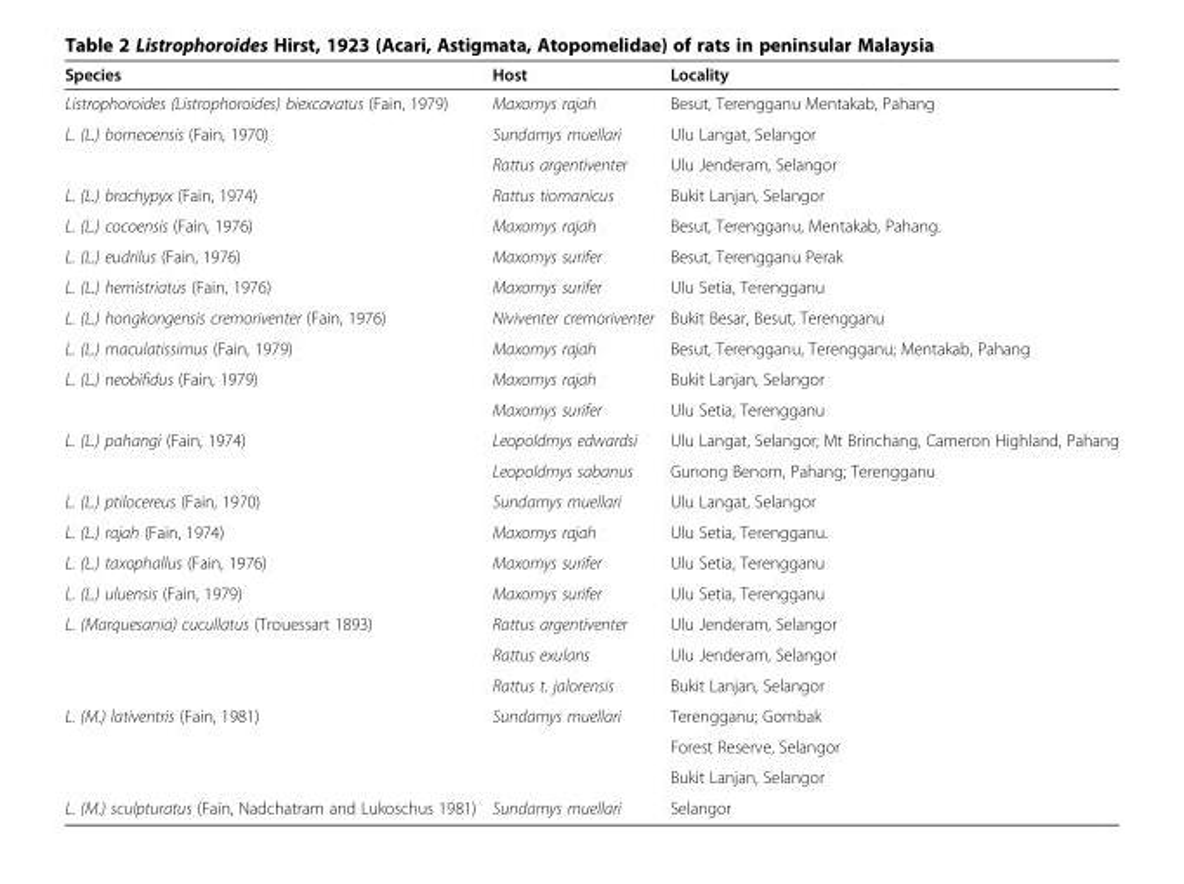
<table><thead><tr><td>Species</td><td>Host</td><td>Locality</td></tr></thead><tbody><tr><td>Listrophoroides (Listrophoroides) biexcavatus (Fain, 1979)</td><td>Maxomys rajah</td><td>Besut, Terengganu Mentakab, Pahang</td></tr><tr><td rowspan="2">L. (L.) borneoensis (Fain, 1970)</td><td>Sundamys muellari</td><td>Ulu Langat, Selangor</td></tr><tr><td>Rattus argentiventer</td><td>Ulu Jenderam, Selangor</td></tr><tr><td>L. (L.) brachypyx (Fain, 1974)</td><td>Rattus tiomanicus</td><td>Bukit Lanjan, Selangor</td></tr><tr><td>L. (L.) cocoensis (Fain, 1976)</td><td>Maxomys rajah</td><td>Besut, Terengganu, Mentakab, Pahang.</td></tr><tr><td>L. (L.) eudrilus (Fain, 1976)</td><td>Maxomys surifer</td><td>Besut, Terengganu Perak</td></tr><tr><td>L. (L.) hemistriatus (Fain, 1976)</td><td>Maxomys surifer</td><td>Ulu Setia, Terengganu</td></tr><tr><td>L. (L.) hongkongensis cremoriventer (Fain, 1976)</td><td>Niviventer cremoriventer</td><td>Bukit Besar, Besut, Terengganu</td></tr><tr><td>L. (L.) maculatissimus (Fain, 1979)</td><td>Maxomys rajah</td><td>Besut, Terengganu, Terengganu; Mentakab, Pahang</td></tr><tr><td rowspan="2">L. (L.) neobifidus (Fain, 1979)</td><td>Maxomys rajah</td><td>Bukit Lanjan, Selangor</td></tr><tr><td>Maxomys surifer</td><td>Ulu Setia, Terengganu</td></tr><tr><td rowspan="2">L. (L.) pahangi (Fain, 1974)</td><td>Leopoldmys edwardsi</td><td>Ulu Langat, Selangor; Mt Brinchang, Cameron Highland, Pahang</td></tr><tr><td>Leopoldmys sabanus</td><td>Gunong Benom, Pahang; Terengganu</td></tr><tr><td>L. (L.) ptilocereus (Fain, 1970)</td><td>Sundamys muellari</td><td>Ulu Langat, Selangor</td></tr><tr><td>L. (L.) rajah (Fain, 1974)</td><td>Maxomys rajah</td><td>Ulu Setia, Terengganu.</td></tr><tr><td>L. (L.) taxophallus (Fain, 1976)</td><td>Maxomys surifer</td><td>Ulu Setia, Terengganu</td></tr><tr><td>L. (L.) uluensis (Fain, 1979)</td><td>Maxomys surifer</td><td>Ulu Setia, Terengganu</td></tr><tr><td rowspan="3">L. (Marquesania) cucullatus (Trouessart 1893)</td><td>Rattus argentiventer</td><td>Ulu Jenderam, Selangor</td></tr><tr><td>Rattus exulans</td><td>Ulu Jenderam, Selangor</td></tr><tr><td>Rattus t. jalorensis</td><td>Bukit Lanjan, Selangor</td></tr><tr><td rowspan="3">L. (M.) lativentris (Fain, 1981)</td><td rowspan="3">Sundamys muellari</td><td>Terengganu; Gombak</td></tr><tr><td>Forest Reserve, Selangor</td></tr><tr><td>Bukit Lanjan, Selangor</td></tr><tr><td>L. (M.) sculpturatus (Fain, Nadchatram and Lukoschus 1981)</td><td>Sundamys muellari</td><td>Selangor</td></tr></tbody></table>